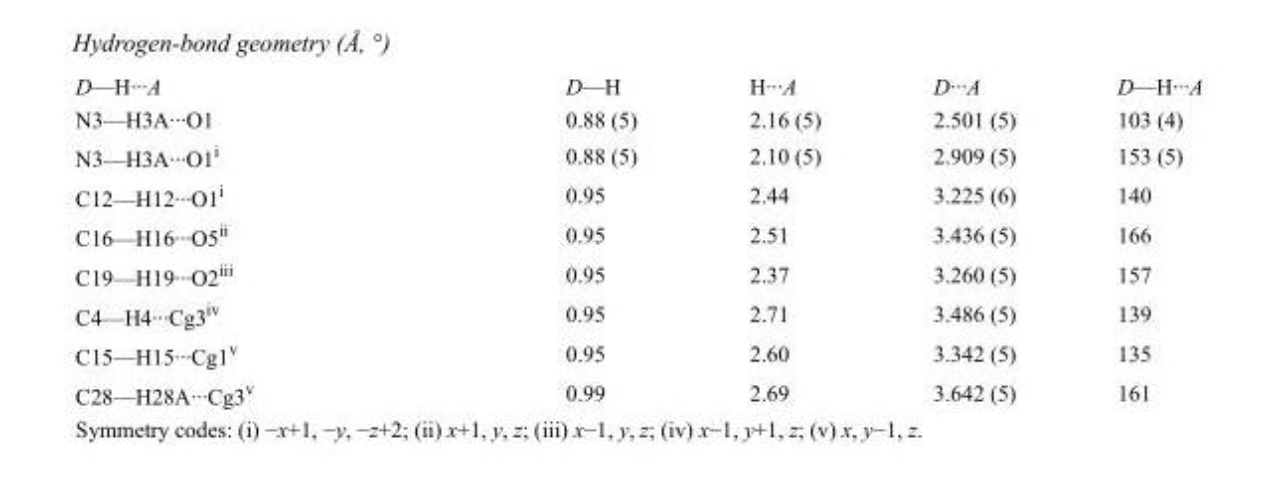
<table><tbody><tr><td>D—H···A</td><td>D—H</td><td>H···A</td><td>D···A</td><td>D—H···A</td></tr><tr><td>N3—H3A···O1</td><td>0.88 (5)</td><td>2.16 (5)</td><td>2.501 (5)</td><td>103 (4)</td></tr><tr><td>N3—H3A···O1<sup>i</sup></td><td>0.88 (5)</td><td>2.10 (5)</td><td>2.909 (5)</td><td>153 (5)</td></tr><tr><td>C12—H12···O1<sup>i</sup></td><td>0.95</td><td>2.44</td><td>3.225 (6)</td><td>140</td></tr><tr><td>C16—H16···O5<sup>ii</sup></td><td>0.95</td><td>2.51</td><td>3.436 (5)</td><td>166</td></tr><tr><td>C19—H19···O2<sup>iii</sup></td><td>0.95</td><td>2.37</td><td>3.260 (5)</td><td>157</td></tr><tr><td>C4—H4···Cg3<sup>iv</sup></td><td>0.95</td><td>2.71</td><td>3.486 (5)</td><td>139</td></tr><tr><td>C15—H15···Cg1<sup>v</sup></td><td>0.95</td><td>2.60</td><td>3.342 (5)</td><td>135</td></tr><tr><td>C28—H28A···Cg3<sup>v</sup></td><td>0.99</td><td>2.69</td><td>3.642 (5)</td><td>161</td></tr></tbody></table>